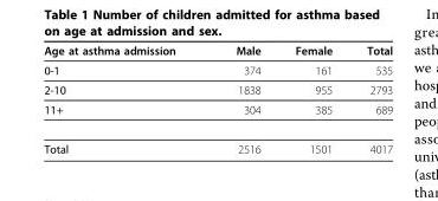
<table><thead><tr><td>Age at asthma admission</td><td>Male</td><td>Female</td><td>Total</td></tr></thead><tbody><tr><td>0-1</td><td>374</td><td>161</td><td>535</td></tr><tr><td>2-10</td><td>1838</td><td>955</td><td>2793</td></tr><tr><td>11+</td><td>304</td><td>385</td><td>689</td></tr><tr><td>Total</td><td>2516</td><td>1501</td><td>4017</td></tr></tbody></table>